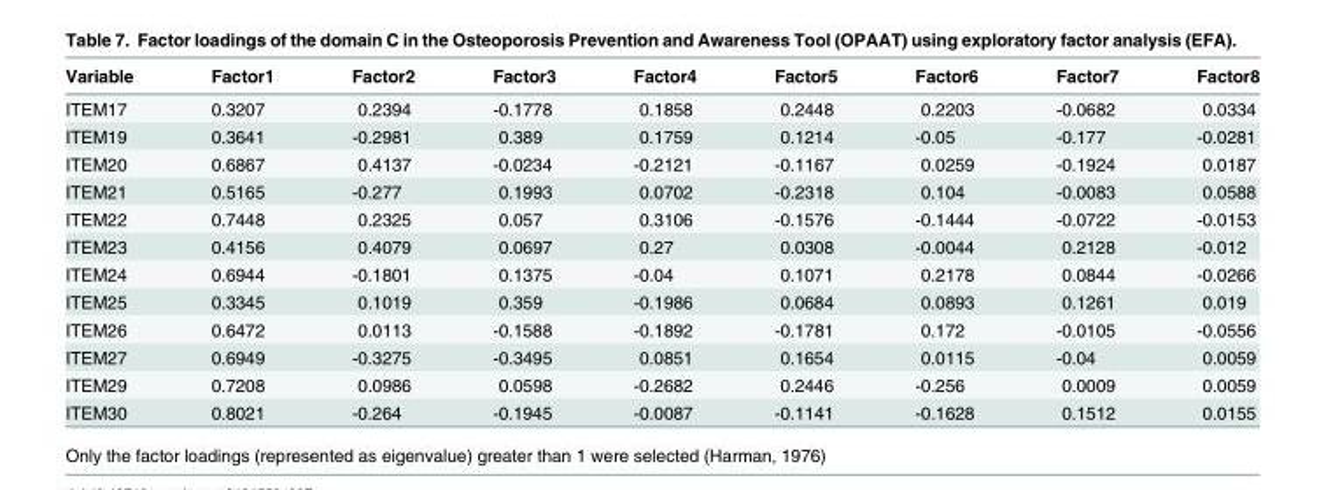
<table><thead><tr><td>Variable</td><td>Factor1</td><td>Factor2</td><td>Factor3</td><td>Factor4</td><td>Factor5</td><td>Factor6</td><td>Factor7</td><td>Factor8</td></tr></thead><tbody><tr><td>ITEM17</td><td>0.3207</td><td>0.2394</td><td>-0.1778</td><td>0.1858</td><td>0.2448</td><td>0.2203</td><td>-0.0682</td><td>0.0334</td></tr><tr><td>ITEM19</td><td>0.3641</td><td>-0.2981</td><td>0.389</td><td>0.1759</td><td>0.1214</td><td>-0.05</td><td>-0.177</td><td>-0.0281</td></tr><tr><td>ITEM20</td><td>0.6867</td><td>0.4137</td><td>-0.0234</td><td>-0.2121</td><td>-0.1167</td><td>0.0259</td><td>-0.1924</td><td>0.0187</td></tr><tr><td>ITEM21</td><td>0.5165</td><td>-0.277</td><td>0.1993</td><td>0.0702</td><td>-0.2318</td><td>0.104</td><td>-0.0083</td><td>0.0588</td></tr><tr><td>ITEM22</td><td>0.7448</td><td>0.2325</td><td>0.057</td><td>0.3106</td><td>-0.1576</td><td>-0.1444</td><td>-0.0722</td><td>-0.0153</td></tr><tr><td>ITEM23</td><td>0.4156</td><td>0.4079</td><td>0.0697</td><td>0.27</td><td>0.0308</td><td>-0.0044</td><td>0.2128</td><td>-0.012</td></tr><tr><td>ITEM24</td><td>0.6944</td><td>-0.1801</td><td>0.1375</td><td>-0.04</td><td>0.1071</td><td>0.2178</td><td>0.0844</td><td>-0.0266</td></tr><tr><td>ITEM25</td><td>0.3345</td><td>0.1019</td><td>0.359</td><td>-0.1986</td><td>0.0684</td><td>0.0893</td><td>0.1261</td><td>0.019</td></tr><tr><td>ITEM26</td><td>0.6472</td><td>0.0113</td><td>-0.1588</td><td>-0.1892</td><td>-0.1781</td><td>0.172</td><td>-0.0105</td><td>-0.0556</td></tr><tr><td>ITEM27</td><td>0.6949</td><td>-0.3275</td><td>-0.3495</td><td>0.0851</td><td>0.1654</td><td>0.0115</td><td>-0.04</td><td>0.0059</td></tr><tr><td>ITEM29</td><td>0.7208</td><td>0.0986</td><td>0.0598</td><td>-0.2682</td><td>0.2446</td><td>-0.256</td><td>0.0009</td><td>0.0059</td></tr><tr><td>ITEM30</td><td>0.8021</td><td>-0.264</td><td>-0.1945</td><td>-0.0087</td><td>-0.1141</td><td>-0.1628</td><td>0.1512</td><td>0.0155</td></tr></tbody></table>